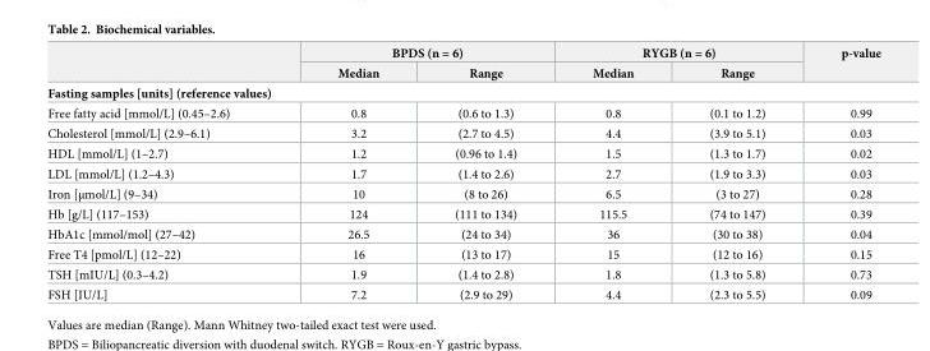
<table><thead><tr><td rowspan="2"></td><td colspan="2">BPDS (n = 6)</td><td colspan="2">RYGB (n = 6)</td><td rowspan="2">p-value</td></tr><tr><td>Median</td><td>Range</td><td>Median</td><td>Range</td></tr></thead><tbody><tr><td colspan="6">Fasting samples [units] (reference values)</td></tr><tr><td>Free fatty acid [mmol/L] (0.45–2.6)</td><td>0.8</td><td>(0.6 to 1.3)</td><td>0.8</td><td>(0.1 to 1.2)</td><td>0.99</td></tr><tr><td>Cholesterol [mmol/L] (2.9–6.1)</td><td>3.2</td><td>(2.7 to 4.5)</td><td>4.4</td><td>(3.9 to 5.1)</td><td>0.03</td></tr><tr><td>HDL [mmol/L] (1–2.7)</td><td>1.2</td><td>(0.96 to 1.4)</td><td>1.5</td><td>(1.3 to 1.7)</td><td>0.02</td></tr><tr><td>LDL [mmol/L] (1.2–4.3)</td><td>1.7</td><td>(1.4 to 2.6)</td><td>2.7</td><td>(1.9 to 3.3)</td><td>0.03</td></tr><tr><td>Iron [μmol/L] (9–34)</td><td>10</td><td>(8 to 26)</td><td>6.5</td><td>(3 to 27)</td><td>0.28</td></tr><tr><td>Hb [g/L] (117–153)</td><td>124</td><td>(111 to 134)</td><td>115.5</td><td>(74 to 147)</td><td>0.39</td></tr><tr><td>HbA1c [mmol/mol] (27–42)</td><td>26.5</td><td>(24 to 34)</td><td>36</td><td>(30 to 38)</td><td>0.04</td></tr><tr><td>Free T4 [pmol/L] (12–22)</td><td>16</td><td>(13 to 17)</td><td>15</td><td>(12 to 16)</td><td>0.15</td></tr><tr><td>TSH [mIU/L] (0.3–4.2)</td><td>1.9</td><td>(1.4 to 2.8)</td><td>1.8</td><td>(1.3 to 5.8)</td><td>0.73</td></tr><tr><td>FSH [IU/L]</td><td>7.2</td><td>(2.9 to 29)</td><td>4.4</td><td>(2.3 to 5.5)</td><td>0.09</td></tr></tbody></table>